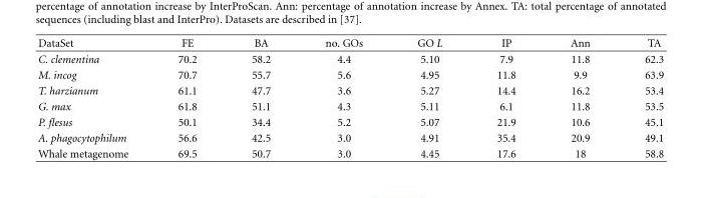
<table><thead><tr><td>DataSet</td><td>FE</td><td>BA</td><td>no. GOs</td><td>GO L</td><td>IP</td><td>Ann</td><td>TA</td></tr></thead><tbody><tr><td>C. clementina</td><td>70.2</td><td>58.2</td><td>4.4</td><td>5.10</td><td>7.9</td><td>11.8</td><td>62.3</td></tr><tr><td>M. incog</td><td>70.7</td><td>55.7</td><td>5.6</td><td>4.95</td><td>11.8</td><td>9.9</td><td>63.9</td></tr><tr><td>T. harzianum</td><td>61.1</td><td>47.7</td><td>3.6</td><td>5.27</td><td>14.4</td><td>16.2</td><td>53.4</td></tr><tr><td>G. max</td><td>61.8</td><td>51.1</td><td>4.3</td><td>5.11</td><td>6.1</td><td>11.8</td><td>53.5</td></tr><tr><td>P. flesus</td><td>50.1</td><td>34.4</td><td>5.2</td><td>5.07</td><td>21.9</td><td>10.6</td><td>45.1</td></tr><tr><td>A. phagocytophilum</td><td>56.6</td><td>42.5</td><td>3.0</td><td>4.91</td><td>35.4</td><td>20.9</td><td>49.1</td></tr><tr><td>Whale metagenome</td><td>69.5</td><td>50.7</td><td>3.0</td><td>4.45</td><td>17.6</td><td>18</td><td>58.8</td></tr></tbody></table>